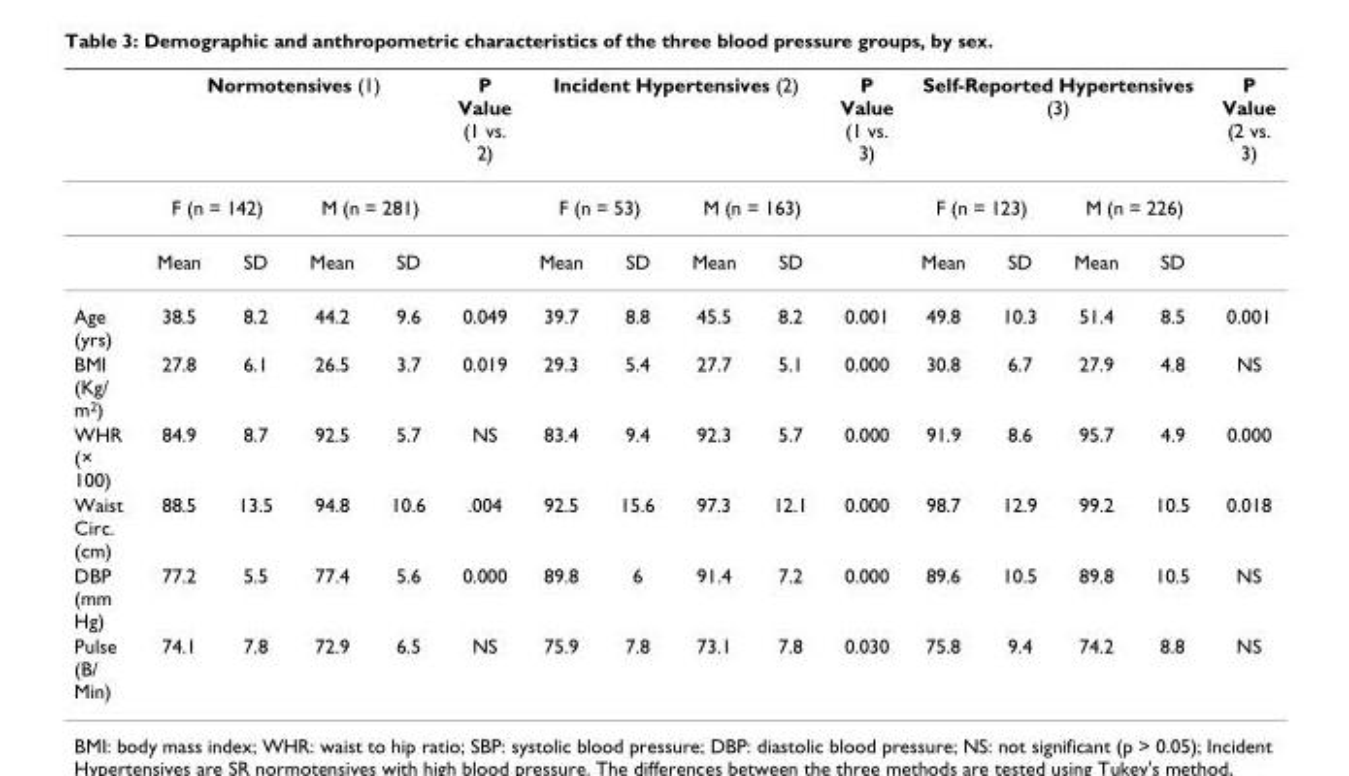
<table><thead><tr><td rowspan="3"></td><td colspan="4">Normotensives (1)</td><td rowspan="3">P Value (1 vs. 2)</td><td colspan="4">Incident Hypertensives (2)</td><td rowspan="3">P Value (1 vs. 3)</td><td colspan="4">Self-Reported Hypertensives (3)</td><td rowspan="3">P Value (2 vs. 3)</td></tr><tr><td colspan="2">F (n = 142)</td><td colspan="2">M (n = 281)</td><td colspan="2">F (n = 53)</td><td colspan="2">M (n = 163)</td><td colspan="2">F (n = 123)</td><td colspan="2">M (n = 226)</td></tr><tr><td>Mean</td><td>SD</td><td>Mean</td><td>SD</td><td>Mean</td><td>SD</td><td>Mean</td><td>SD</td><td>Mean</td><td>SD</td><td>Mean</td><td>SD</td></tr></thead><tbody><tr><td>Age (yrs)</td><td>38.5</td><td>8.2</td><td>44.2</td><td>9.6</td><td>0.049</td><td>39.7</td><td>8.8</td><td>45.5</td><td>8.2</td><td>0.001</td><td>49.8</td><td>10.3</td><td>51.4</td><td>8.5</td><td>0.001</td></tr><tr><td>BMI (Kg/ m<sup>2</sup>)</td><td>27.8</td><td>6.1</td><td>26.5</td><td>3.7</td><td>0.019</td><td>29.3</td><td>5.4</td><td>27.7</td><td>5.1</td><td>0.000</td><td>30.8</td><td>6.7</td><td>27.9</td><td>4.8</td><td>NS</td></tr><tr><td>WHR (× 100)</td><td>84.9</td><td>8.7</td><td>92.5</td><td>5.7</td><td>NS</td><td>83.4</td><td>9.4</td><td>92.3</td><td>5.7</td><td>0.000</td><td>91.9</td><td>8.6</td><td>95.7</td><td>4.9</td><td>0.000</td></tr><tr><td>Waist Circ. (cm)</td><td>88.5</td><td>13.5</td><td>94.8</td><td>10.6</td><td>.004</td><td>92.5</td><td>15.6</td><td>97.3</td><td>12.1</td><td>0.000</td><td>98.7</td><td>12.9</td><td>99.2</td><td>10.5</td><td>0.018</td></tr><tr><td>DBP (mm Hg)</td><td>77.2</td><td>5.5</td><td>77.4</td><td>5.6</td><td>0.000</td><td>89.8</td><td>6</td><td>91.4</td><td>7.2</td><td>0.000</td><td>89.6</td><td>10.5</td><td>89.8</td><td>10.5</td><td>NS</td></tr><tr><td>Pulse (B/ Min)</td><td>74.1</td><td>7.8</td><td>72.9</td><td>6.5</td><td>NS</td><td>75.9</td><td>7.8</td><td>73.1</td><td>7.8</td><td>0.030</td><td>75.8</td><td>9.4</td><td>74.2</td><td>8.8</td><td>NS</td></tr></tbody></table>